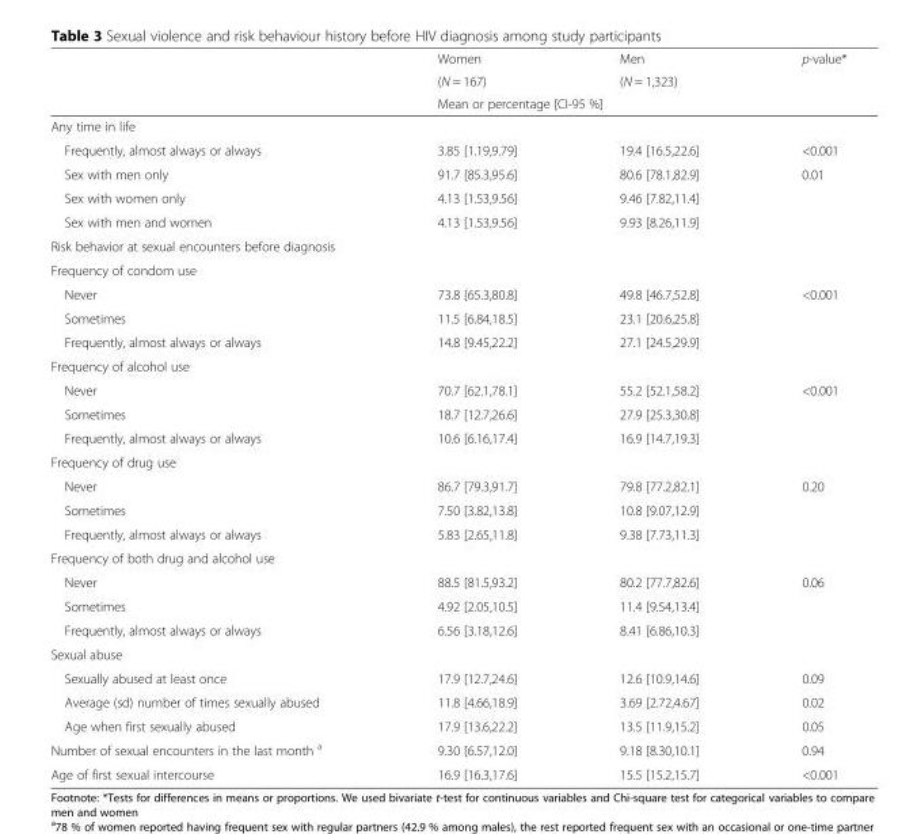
<table><thead><tr><td rowspan="3"></td><td rowspan="2">Women (N = 167)</td><td rowspan="2">Men (N = 1,323)</td><td rowspan="3">p-value*</td></tr><tr></tr><tr><td colspan="2">Mean or percentage [CI-95 %]</td></tr></thead><tbody><tr><td colspan="4">Any time in life</td></tr><tr><td>Frequently, almost always or always</td><td>3.85 [1.19,9.79]</td><td>19.4 [16.5,22.6]</td><td>&lt;0.001</td></tr><tr><td>Sex with men only</td><td>91.7 [85.3,95.6]</td><td>80.6 [78.1,82.9]</td><td>0.01</td></tr><tr><td>Sex with women only</td><td>4.13 [1.53,9.56]</td><td>9.46 [7.82,11.4]</td><td></td></tr><tr><td>Sex with men and women</td><td>4.13 [1.53,9.56]</td><td>9.93 [8.26,11.9]</td><td></td></tr><tr><td colspan="4">Risk behavior at sexual encounters before diagnosis</td></tr><tr><td colspan="4">Frequency of condom use</td></tr><tr><td>Never</td><td>73.8 [65.3,80.8]</td><td>49.8 [46.7,52.8]</td><td>&lt;0.001</td></tr><tr><td>Sometimes</td><td>11.5 [6.84,18.5]</td><td>23.1 [20.6,25.8]</td><td></td></tr><tr><td>Frequently, almost always or always</td><td>14.8 [9.45,22.2]</td><td>27.1 [24.5,29.9]</td><td></td></tr><tr><td colspan="4">Frequency of alcohol use</td></tr><tr><td>Never</td><td>70.7 [62.1,78.1]</td><td>55.2 [52.1,58.2]</td><td>&lt;0.001</td></tr><tr><td>Sometimes</td><td>18.7 [12.7,26.6]</td><td>27.9 [25.3,30.8]</td><td></td></tr><tr><td>Frequently, almost always or always</td><td>10.6 [6.16,17.4]</td><td>16.9 [14.7,19.3]</td><td></td></tr><tr><td colspan="4">Frequency of drug use</td></tr><tr><td>Never</td><td>86.7 [79.3,91.7]</td><td>79.8 [77.2,82.1]</td><td>0.20</td></tr><tr><td>Sometimes</td><td>7.50 [3.82,13.8]</td><td>10.8 [9.07,12.9]</td><td></td></tr><tr><td>Frequently, almost always or always</td><td>5.83 [2.65,11.8]</td><td>9.38 [7.73,11.3]</td><td></td></tr><tr><td colspan="4">Frequency of both drug and alcohol use</td></tr><tr><td>Never</td><td>88.5 [81.5,93.2]</td><td>80.2 [77.7,82.6]</td><td>0.06</td></tr><tr><td>Sometimes</td><td>4.92 [2.05,10.5]</td><td>11.4 [9.54,13.4]</td><td></td></tr><tr><td>Frequently, almost always or always</td><td>6.56 [3.18,12.6]</td><td>8.41 [6.86,10.3]</td><td></td></tr><tr><td colspan="4">Sexual abuse</td></tr><tr><td>Sexually abused at least once</td><td>17.9 [12.7,24.6]</td><td>12.6 [10.9,14.6]</td><td>0.09</td></tr><tr><td>Average (sd) number of times sexually abused</td><td>11.8 [4.66,18.9]</td><td>3.69 [2.72,4.67]</td><td>0.02</td></tr><tr><td>Age when first sexually abused</td><td>17.9 [13.6,22.2]</td><td>13.5 [11.9,15.2]</td><td>0.05</td></tr><tr><td>Number of sexual encounters in the last month <sup>a</sup></td><td>9.30 [6.57,12.0]</td><td>9.18 [8.30,10.1]</td><td>0.94</td></tr><tr><td>Age of first sexual intercourse</td><td>16.9 [16.3,17.6]</td><td>15.5 [15.2,15.7]</td><td>&lt;0.001</td></tr></tbody></table>